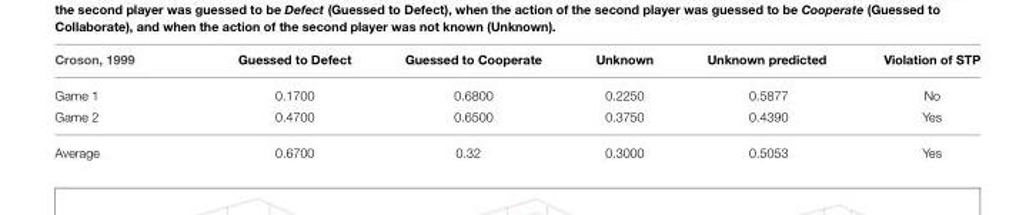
<table><thead><tr><td>Croson, 1999</td><td>Guessed to Defect</td><td>Guessed to Cooperate</td><td>Unknown</td><td>Unknown predicted</td><td>Violation of STP</td></tr></thead><tbody><tr><td>Game 1</td><td>0.1700</td><td>0.6800</td><td>0.2250</td><td>0.5877</td><td>No</td></tr><tr><td>Game 2</td><td>0.4700</td><td>0.6500</td><td>0.3750</td><td>0.4390</td><td>Yes</td></tr><tr><td>Average</td><td>0.6700</td><td>0.32</td><td>0.3000</td><td>0.5053</td><td>Yes</td></tr></tbody></table>